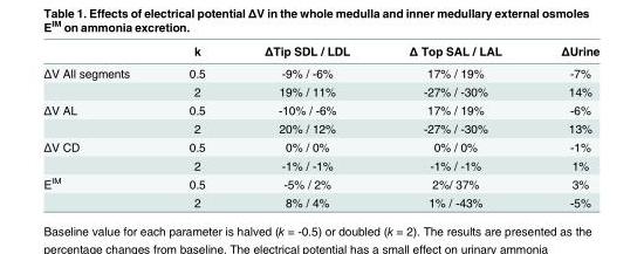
<table><thead><tr><td></td><td>k</td><td>ΔTip SDL / LDL</td><td>Δ Top SAL / LAL</td><td>ΔUrine</td></tr></thead><tbody><tr><td rowspan="2">ΔV All segments</td><td>0.5</td><td>-9% / -6%</td><td>17% / 19%</td><td>-7%</td></tr><tr><td>2</td><td>19% / 11%</td><td>-27% / -30%</td><td>14%</td></tr><tr><td rowspan="2">ΔV AL</td><td>0.5</td><td>-10% / -6%</td><td>17% / 19%</td><td>-6%</td></tr><tr><td>2</td><td>20% / 12%</td><td>-27% / -30%</td><td>13%</td></tr><tr><td rowspan="2">ΔV CD</td><td>0.5</td><td>0% / 0%</td><td>0% / 0%</td><td>-1%</td></tr><tr><td>2</td><td>-1% / -1%</td><td>-1% / -1%</td><td>1%</td></tr><tr><td rowspan="2">E<sup>IM</sup></td><td>0.5</td><td>-5% / 2%</td><td>2%/ 37%</td><td>3%</td></tr><tr><td>2</td><td>8% / 4%</td><td>1% / -43%</td><td>-5%</td></tr></tbody></table>